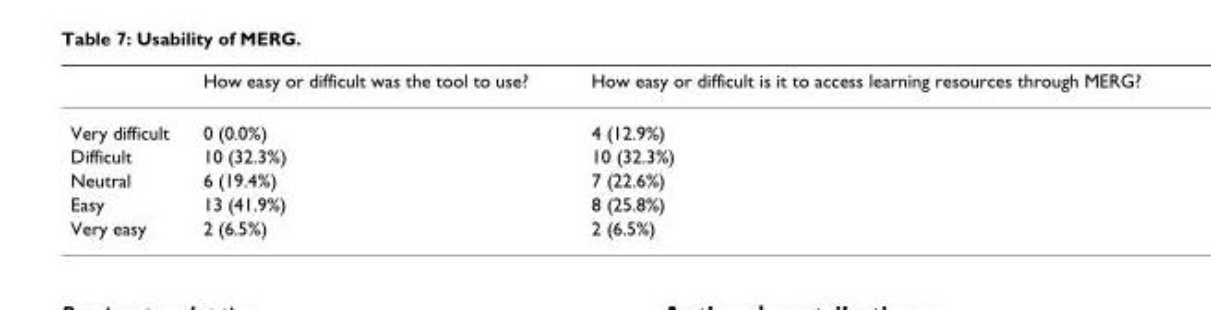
<table><thead><tr><td></td><td>How easy or difficult was the tool to use?</td><td>How easy or difficult is it to access learning resources through MERG?</td></tr></thead><tbody><tr><td>Very difficult</td><td>0 (0.0%)</td><td>4 (12.9%)</td></tr><tr><td>Difficult</td><td>10 (32.3%)</td><td>10 (32.3%)</td></tr><tr><td>Neutral</td><td>6 (19.4%)</td><td>7 (22.6%)</td></tr><tr><td>Easy</td><td>13 (41.9%)</td><td>8 (25.8%)</td></tr><tr><td>Very easy</td><td>2 (6.5%)</td><td>2 (6.5%)</td></tr></tbody></table>